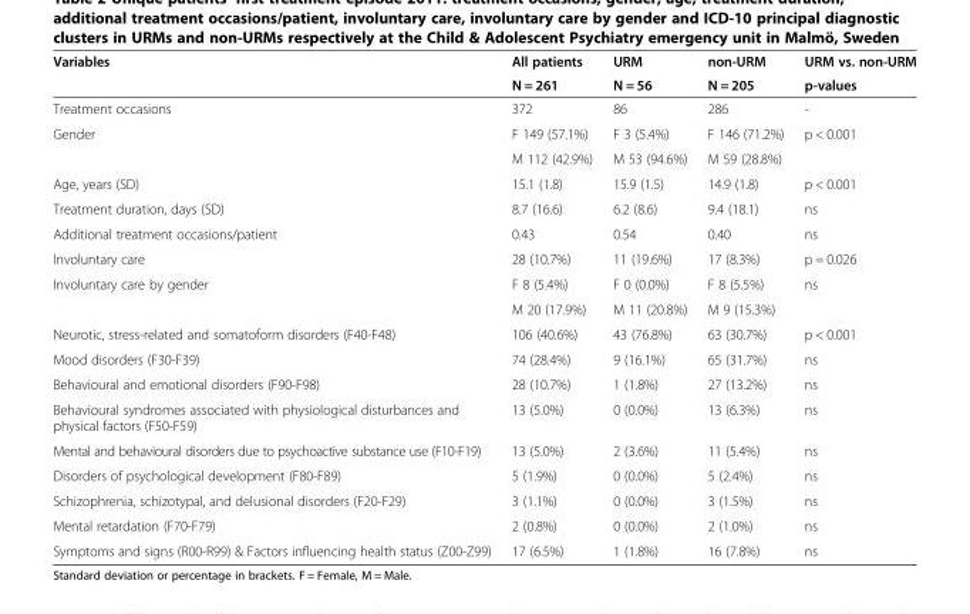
<table><thead><tr><td rowspan="2">Variables</td><td rowspan="2">All patients N = 261</td><td rowspan="2">URM N = 56</td><td rowspan="2">non-URM N = 205</td><td rowspan="2">URM vs. non-URM p-values</td></tr><tr></tr></thead><tbody><tr><td>Treatment occasions</td><td>372</td><td>86</td><td>286</td><td>-</td></tr><tr><td rowspan="2">Gender</td><td>F 149 (57.1%)</td><td>F 3 (5.4%)</td><td>F 146 (71.2%)</td><td rowspan="2">p &lt; 0.001</td></tr><tr><td>M 112 (42.9%)</td><td>M 53 (94.6%)</td><td>M 59 (28.8%)</td></tr><tr><td>Age, years (SD)</td><td>15.1 (1.8)</td><td>15.9 (1.5)</td><td>14.9 (1.8)</td><td>p &lt; 0.001</td></tr><tr><td>Treatment duration, days (SD)</td><td>8.7 (16.6)</td><td>6.2 (8.6)</td><td>9.4 (18.1)</td><td>ns</td></tr><tr><td>Additional treatment occasions/patient</td><td>0.43</td><td>0.54</td><td>0.40</td><td>ns</td></tr><tr><td>Involuntary care</td><td>28 (10.7%)</td><td>11 (19.6%)</td><td>17 (8.3%)</td><td>p = 0.026</td></tr><tr><td rowspan="2">Involuntary care by gender</td><td>F 8 (5.4%)</td><td>F 0 (0.0%)</td><td>F 8 (5.5%)</td><td rowspan="2">ns</td></tr><tr><td>M 20 (17.9%)</td><td>M 11 (20.8%)</td><td>M 9 (15.3%)</td></tr><tr><td>Neurotic, stress-related and somatoform disorders (F40-F48)</td><td>106 (40.6%)</td><td>43 (76.8%)</td><td>63 (30.7%)</td><td>p &lt; 0.001</td></tr><tr><td>Mood disorders (F30-F39)</td><td>74 (28.4%)</td><td>9 (16.1%)</td><td>65 (31.7%)</td><td>ns</td></tr><tr><td>Behavioural and emotional disorders (F90-F98)</td><td>28 (10.7%)</td><td>1 (1.8%)</td><td>27 (13.2%)</td><td>ns</td></tr><tr><td>Behavioural syndromes associated with physiological disturbances and physical factors (F50-F59)</td><td>13 (5.0%)</td><td>0 (0.0%)</td><td>13 (6.3%)</td><td>ns</td></tr><tr><td>Mental and behavioural disorders due to psychoactive substance use (F10-F19)</td><td>13 (5.0%)</td><td>2 (3.6%)</td><td>11 (5.4%)</td><td>ns</td></tr><tr><td>Disorders of psychological development (F80-F89)</td><td>5 (1.9%)</td><td>0 (0.0%)</td><td>5 (2.4%)</td><td>ns</td></tr><tr><td>Schizophrenia, schizotypal, and delusional disorders (F20-F29)</td><td>3 (1.1%)</td><td>0 (0.0%)</td><td>3 (1.5%)</td><td>ns</td></tr><tr><td>Mental retardation (F70-F79)</td><td>2 (0.8%)</td><td>0 (0.0%)</td><td>2 (1.0%)</td><td>ns</td></tr><tr><td>Symptoms and signs (R00-R99) &amp; Factors influencing health status (Z00-Z99)</td><td>17 (6.5%)</td><td>1 (1.8%)</td><td>16 (7.8%)</td><td>ns</td></tr></tbody></table>